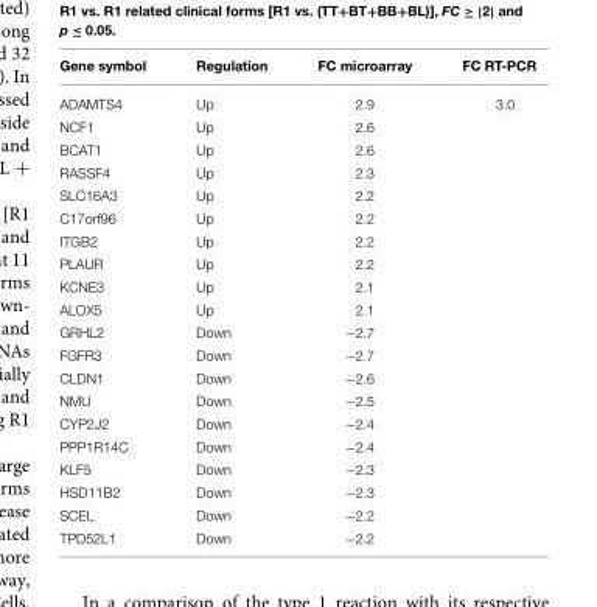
<table><thead><tr><td>Gene symbol</td><td>Regulation</td><td>FC microarray</td><td>FC RT-PCR</td></tr></thead><tbody><tr><td>ADAMTS4</td><td>Up</td><td>2.9</td><td>3.0</td></tr><tr><td>NCF1</td><td>Up</td><td>2.6</td><td></td></tr><tr><td>BCAT1</td><td>Up</td><td>2.6</td><td></td></tr><tr><td>RASSF4</td><td>Up</td><td>2.3</td><td></td></tr><tr><td>SLC16A3</td><td>Up</td><td>2.2</td><td></td></tr><tr><td>C17orf96</td><td>Up</td><td>2.2</td><td></td></tr><tr><td>ITGB2</td><td>Up</td><td>2.2</td><td></td></tr><tr><td>PLAUR</td><td>Up</td><td>2.2</td><td></td></tr><tr><td>KCNE3</td><td>Up</td><td>2.1</td><td></td></tr><tr><td>ALOX5</td><td>Up</td><td>2.1</td><td></td></tr><tr><td>GRHL2</td><td>Down</td><td>−2.7</td><td></td></tr><tr><td>FGFR3</td><td>Down</td><td>−2.7</td><td></td></tr><tr><td>CLDN1</td><td>Down</td><td>−2.6</td><td></td></tr><tr><td>NMU</td><td>Down</td><td>−2.5</td><td></td></tr><tr><td>CYP2J2</td><td>Down</td><td>−2.4</td><td></td></tr><tr><td>PPP1R14C</td><td>Down</td><td>−2.4</td><td></td></tr><tr><td>KLF5</td><td>Down</td><td>−2.3</td><td></td></tr><tr><td>HSD11B2</td><td>Down</td><td>−2.3</td><td></td></tr><tr><td>SCEL</td><td>Down</td><td>−2.2</td><td></td></tr><tr><td>TPD52L1</td><td>Down</td><td>−2.2</td><td></td></tr></tbody></table>